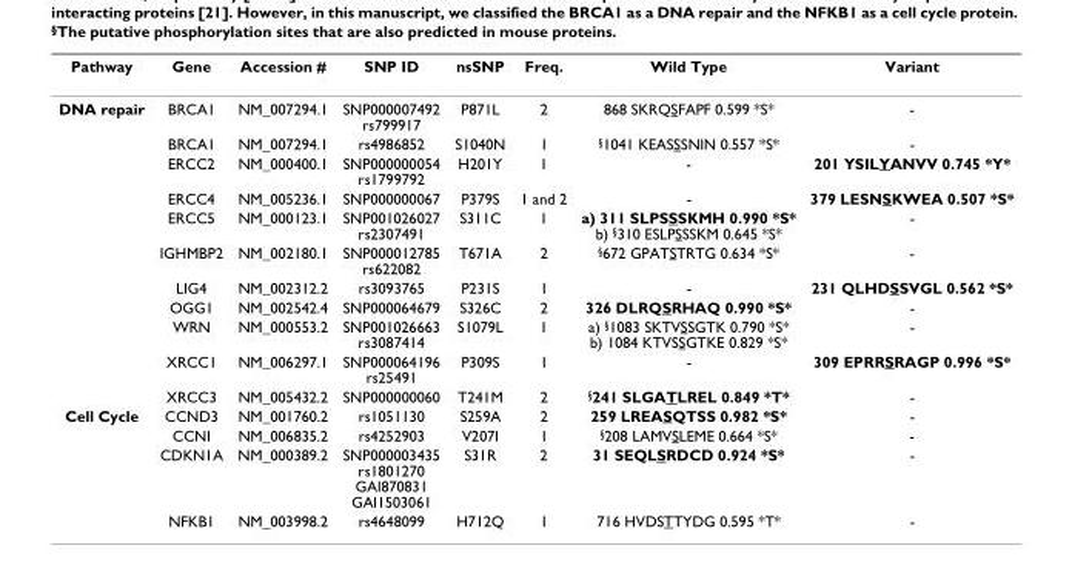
<table><thead><tr><td>Pathway</td><td>Gene</td><td>Accession #</td><td>SNP ID</td><td>nsSNP</td><td>Freq.</td><td>Wild Type</td><td>Variant</td></tr></thead><tbody><tr><td rowspan="11">DNA repair</td><td>BRCA1</td><td>NM_007294.1</td><td>SNP000007492 rs799917</td><td>P871L</td><td>2</td><td>868 SKRQSFAPF 0.599 *S*</td><td>-</td></tr><tr><td>BRCA1</td><td>NM_007294.1</td><td>rs4986852</td><td>S1040N</td><td>1</td><td>§1041 KEASSSNIN 0.557 *S*</td><td>-</td></tr><tr><td>ERCC2</td><td>NM_000400.1</td><td>SNP000000054 rs1799792</td><td>H201Y</td><td>1</td><td>-</td><td>201 YSILYANVV 0.745 *Y*</td></tr><tr><td>ERCC4</td><td>NM_005236.1</td><td>SNP000000067</td><td>P379S</td><td>1 and 2</td><td>-</td><td>379 LESNSKWEA 0.507 *S*</td></tr><tr><td>ERCC5</td><td>NM_000123.1</td><td>SNP001026027 rs2307491</td><td>S311C</td><td>1</td><td>a) 311 SLPSSSKMH 0.990 *S* b) §310 ESLPSSSKM 0.645 *S*</td><td>-</td></tr><tr><td>IGHMBP2</td><td>NM_002180.1</td><td>SNP000012785 rs622082</td><td>T671A</td><td>2</td><td>§672 GPATSTRTG 0.634 *S*</td><td>-</td></tr><tr><td>LIG4</td><td>NM_002312.2</td><td>rs3093765</td><td>P231S</td><td>1</td><td>-</td><td>231 QLHDSSVGL 0.562 *S*</td></tr><tr><td>OGG1</td><td>NM_002542.4</td><td>SNP000064679</td><td>S326C</td><td>2</td><td>326 DLRQSRHAQ 0.990 *S*</td><td>-</td></tr><tr><td>WRN</td><td>NM_000553.2</td><td>SNP001026663 rs3087414</td><td>S1079L</td><td>1</td><td>a) §1083 SKTVSSGTK 0.790 *S* b) 1084 KTVSSGTKE 0.829 *S*</td><td>-</td></tr><tr><td>XRCC1</td><td>NM_006297.1</td><td>SNP000064196 rs25491</td><td>P309S</td><td>1</td><td>-</td><td>309 EPRRSRAGP 0.996 *S*</td></tr><tr><td>XRCC3</td><td>NM_005432.2</td><td>SNP000000060</td><td>T241M</td><td>2</td><td>§241 SLGATLREL 0.849 *T*</td><td>-</td></tr><tr><td rowspan="4">Cell Cycle</td><td>CCND3</td><td>NM_001760.2</td><td>rs1051130</td><td>S259A</td><td>2</td><td>259 LREASQTSS 0.982 *S*</td><td>-</td></tr><tr><td>CCNI</td><td>NM_006835.2</td><td>rs4252903</td><td>V207I</td><td>1</td><td>§208 LAMVSLEME 0.664 *S*</td><td>-</td></tr><tr><td>CDKN1A</td><td>NM_000389.2</td><td>SNP000003435 rs1801270 GAI870831 GAI1503061</td><td>S31R</td><td>2</td><td>31 SEQLSRDCD 0.924 *S*</td><td>-</td></tr><tr><td>NFKB1</td><td>NM_003998.2</td><td>rs4648099</td><td>H712Q</td><td>1</td><td>716 HVDSTTYDG 0.595 *T*</td><td>-</td></tr></tbody></table>